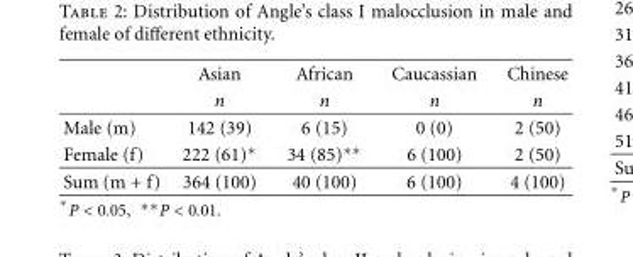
<table><thead><tr><td rowspan="2"></td><td rowspan="2">Asian n</td><td rowspan="2">African n</td><td rowspan="2">Caucassian n</td><td rowspan="2">Chinese n</td></tr><tr></tr></thead><tbody><tr><td>Male (m)</td><td>142 (39)</td><td>6 (15)</td><td>0 (0)</td><td>2 (50)</td></tr><tr><td>Female (f)</td><td>222 (61)∗</td><td>34 (85)∗∗</td><td>6 (100)</td><td>2 (50)</td></tr><tr><td>Sum (m + f)</td><td>364 (100)</td><td>40 (100)</td><td>6 (100)</td><td>4 (100)</td></tr></tbody></table>